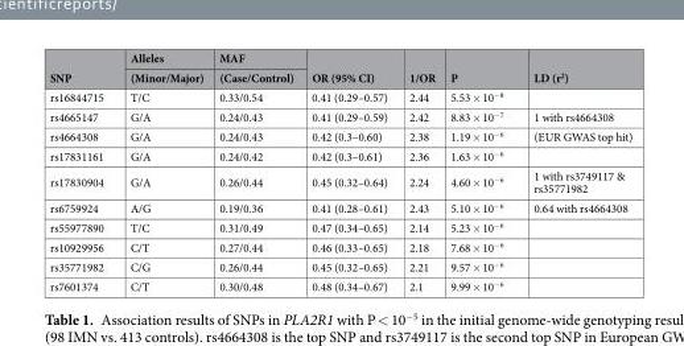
<table><thead><tr><td rowspan="2">SNP</td><td rowspan="2">Alleles (Minor/Major)</td><td rowspan="2">MAF (Case/Control)</td><td rowspan="2">OR (95% CI)</td><td rowspan="2">1/OR</td><td rowspan="2">P</td><td rowspan="2">LD (r<sup>2</sup>)</td></tr><tr></tr></thead><tbody><tr><td>rs16844715</td><td>T/C</td><td>0.33/0.54</td><td>0.41 (0.29–0.57)</td><td>2.44</td><td>5.53 × 10<sup>−8</sup></td><td></td></tr><tr><td>rs4665147</td><td>G/A</td><td>0.24/0.43</td><td>0.41 (0.29–0.59)</td><td>2.42</td><td>8.83 × 10<sup>−7</sup></td><td>1 with rs4664308</td></tr><tr><td>rs4664308</td><td>G/A</td><td>0.24/0.43</td><td>0.42 (0.3–0.60)</td><td>2.38</td><td>1.19 × 10<sup>−6</sup></td><td>(EUR GWAS top hit)</td></tr><tr><td>rs17831161</td><td>G/A</td><td>0.24/0.42</td><td>0.42 (0.3–0.61)</td><td>2.36</td><td>1.63 × 10<sup>−6</sup></td><td></td></tr><tr><td>rs17830904</td><td>G/A</td><td>0.26/0.44</td><td>0.45 (0.32–0.64)</td><td>2.24</td><td>4.60 × 10<sup>−6</sup></td><td>1 with rs3749117 &amp; rs35771982</td></tr><tr><td>rs6759924</td><td>A/G</td><td>0.19/0.36</td><td>0.41 (0.28–0.61)</td><td>2.43</td><td>5.10 × 10<sup>−6</sup></td><td>0.64 with rs4664308</td></tr><tr><td>rs55977890</td><td>T/C</td><td>0.31/0.49</td><td>0.47 (0.34–0.65)</td><td>2.14</td><td>5.23 × 10<sup>−6</sup></td><td></td></tr><tr><td>rs10929956</td><td>C/T</td><td>0.27/0.44</td><td>0.46 (0.33–0.65)</td><td>2.18</td><td>7.68 × 10<sup>−6</sup></td><td></td></tr><tr><td>rs35771982</td><td>C/G</td><td>0.26/0.44</td><td>0.45 (0.32–0.65)</td><td>2.21</td><td>9.57 × 10<sup>−6</sup></td><td></td></tr><tr><td>rs7601374</td><td>C/T</td><td>0.30/0.48</td><td>0.48 (0.34–0.67)</td><td>2.1</td><td>9.99 × 10<sup>−6</sup></td><td></td></tr></tbody></table>